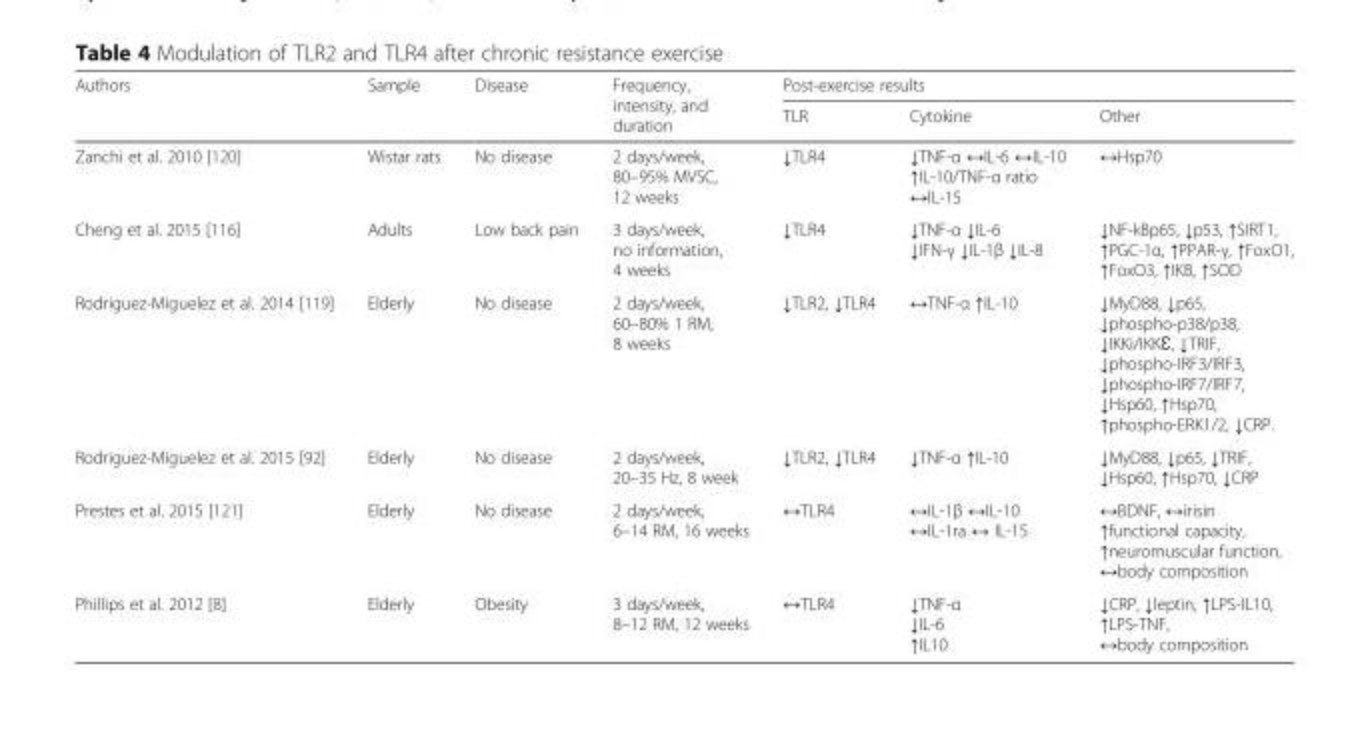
<table><thead><tr><td rowspan="2">Authors</td><td rowspan="2">Sample</td><td rowspan="2">Disease</td><td rowspan="2">Frequency, intensity, and duration</td><td colspan="3">Post-exercise results</td></tr><tr><td>TLR</td><td>Cytokine</td><td>Other</td></tr></thead><tbody><tr><td>Zanchi et al. 2010 [120]</td><td>Wistar rats</td><td>No disease</td><td>2 days/week, 80–95% MVSC, 12 weeks</td><td>↓TLR4</td><td>↓TNF-α ↔IL-6 ↔IL-10 ↑IL-10/TNF-α ratio ↔IL-15</td><td>↔Hsp70</td></tr><tr><td>Cheng et al. 2015 [116]</td><td>Adults</td><td>Low back pain</td><td>3 days/week, no information, 4 weeks</td><td>↓TLR4</td><td>↓TNF-α ↓IL-6 ↓IFN-γ ↓IL-1β ↓IL-8</td><td>↓NF-kBp65, ↓p53, ↑SIRT1, ↑PGC-1α, ↑PPAR-γ, ↑FoxO1, ↑FoxO3, ↑IKB, ↑SOD</td></tr><tr><td>Rodriguez-Miguelez et al. 2014 [119]</td><td>Elderly</td><td>No disease</td><td>2 days/week, 60–80% 1 RM, 8 weeks</td><td>↓TLR2, ↓TLR4</td><td>↔TNF-α ↑IL-10</td><td>↓MyD88, ↓p65, ↓phospho-p38/p38, ↓IKKi/IKKƐ, ↓TRIF, ↓phospho-IRF3/IRF3, ↓phospho-IRF7/IRF7, ↓Hsp60, ↑Hsp70, ↑phospho-ERK1/2, ↓CRP.</td></tr><tr><td>Rodriguez-Miguelez et al. 2015 [92]</td><td>Elderly</td><td>No disease</td><td>2 days/week, 20–35 Hz, 8 week</td><td>↓TLR2, ↓TLR4</td><td>↓TNF-α ↑IL-10</td><td>↓MyD88, ↓p65, ↓TRIF, ↓Hsp60, ↑Hsp70, ↓CRP</td></tr><tr><td>Prestes et al. 2015 [121]</td><td>Elderly</td><td>No disease</td><td>2 days/week, 6–14 RM, 16 weeks</td><td>↔TLR4</td><td>↔IL-1β ↔IL-10 ↔IL-1ra ↔ IL-15</td><td>↔BDNF, ↔irisin ↑functional capacity, ↑neuromuscular function, ↔body composition</td></tr><tr><td>Phillips et al. 2012 [8]</td><td>Elderly</td><td>Obesity</td><td>3 days/week, 8–12 RM, 12 weeks</td><td>↔TLR4</td><td>↓TNF-α ↓IL-6 ↑IL10</td><td>↓CRP, ↓leptin, ↑LPS-IL10, ↑LPS-TNF, ↔body composition</td></tr></tbody></table>